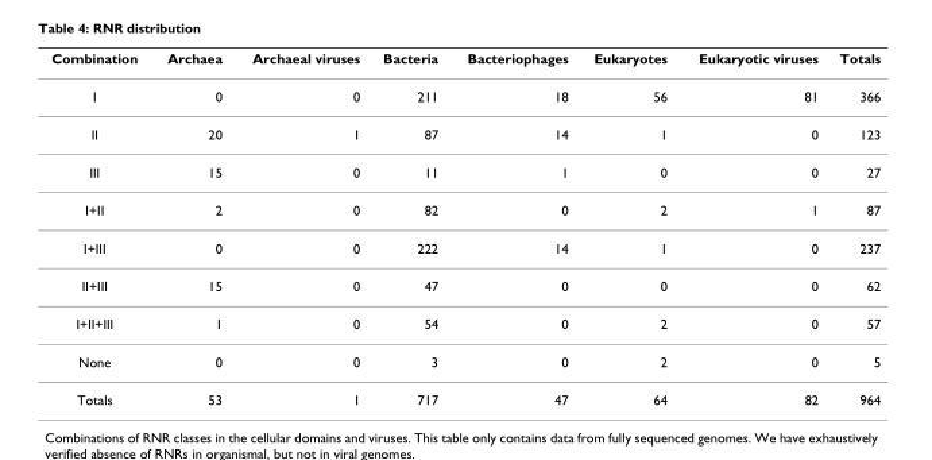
<table><thead><tr><td>Combination</td><td>Archaea</td><td>Archaeal viruses</td><td>Bacteria</td><td>Bacteriophages</td><td>Eukaryotes</td><td>Eukaryotic viruses</td><td>Totals</td></tr></thead><tbody><tr><td>I</td><td>0</td><td>0</td><td>211</td><td>18</td><td>56</td><td>81</td><td>366</td></tr><tr><td>II</td><td>20</td><td>1</td><td>87</td><td>14</td><td>1</td><td>0</td><td>123</td></tr><tr><td>III</td><td>15</td><td>0</td><td>11</td><td>1</td><td>0</td><td>0</td><td>27</td></tr><tr><td>I+II</td><td>2</td><td>0</td><td>82</td><td>0</td><td>2</td><td>1</td><td>87</td></tr><tr><td>I+III</td><td>0</td><td>0</td><td>222</td><td>14</td><td>1</td><td>0</td><td>237</td></tr><tr><td>II+III</td><td>15</td><td>0</td><td>47</td><td>0</td><td>0</td><td>0</td><td>62</td></tr><tr><td>I+II+III</td><td>1</td><td>0</td><td>54</td><td>0</td><td>2</td><td>0</td><td>57</td></tr><tr><td>None</td><td>0</td><td>0</td><td>3</td><td>0</td><td>2</td><td>0</td><td>5</td></tr><tr><td>Totals</td><td>53</td><td>1</td><td>717</td><td>47</td><td>64</td><td>82</td><td>964</td></tr></tbody></table>